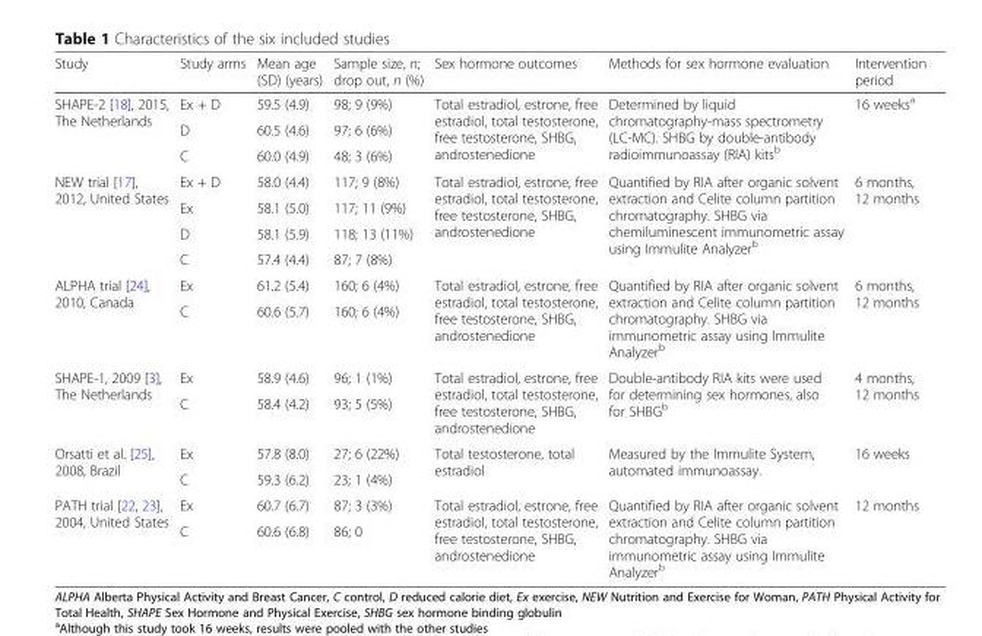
<table><thead><tr><td>Study</td><td>Study arms</td><td>Mean age (SD) (years)</td><td>Sample size, n; drop out, n (%)</td><td>Sex hormone outcomes</td><td>Methods for sex hormone evaluation</td><td>Intervention period</td></tr></thead><tbody><tr><td rowspan="3">SHAPE-2 [18], 2015, The Netherlands</td><td>Ex + D</td><td>59.5 (4.9)</td><td>98; 9 (9%)</td><td rowspan="3">Total estradiol, estrone, free estradiol, total testosterone, free testosterone, SHBG, androstenedione</td><td rowspan="3">Determined by liquid chromatography-mass spectrometry (LC-MC). SHBG by double-antibody radioimmunoassay (RIA) kits<sup>b</sup></td><td rowspan="3">16 weeks<sup>a</sup></td></tr><tr><td>D</td><td>60.5 (4.6)</td><td>97; 6 (6%)</td></tr><tr><td>C</td><td>60.0 (4.9)</td><td>48; 3 (6%)</td></tr><tr><td rowspan="4">NEW trial [17], 2012, United States</td><td>Ex + D</td><td>58.0 (4.4)</td><td>117; 9 (8%)</td><td rowspan="4">Total estradiol, estrone, free estradiol, total testosterone, free testosterone, SHBG, androstenedione</td><td rowspan="4">Quantified by RIA after organic solvent extraction and Celite column partition chromatography. SHBG via chemiluminescent immunometric assay using Immulite Analyzer<sup>b</sup></td><td rowspan="4">6 months, 12 months</td></tr><tr><td>Ex</td><td>58.1 (5.0)</td><td>117; 11 (9%)</td></tr><tr><td>D</td><td>58.1 (5.9)</td><td>118; 13 (11%)</td></tr><tr><td>C</td><td>57.4 (4.4)</td><td>87; 7 (8%)</td></tr><tr><td rowspan="2">ALPHA trial [24], 2010, Canada</td><td>Ex</td><td>61.2 (5.4)</td><td>160; 6 (4%)</td><td rowspan="2">Total estradiol, estrone, free estradiol, total testosterone, free testosterone, SHBG, androstenedione</td><td rowspan="2">Quantified by RIA after organic solvent extraction and Celite column partition chromatography. SHBG via immunometric assay using Immulite Analyzer<sup>b</sup></td><td rowspan="2">6 months, 12 months</td></tr><tr><td>C</td><td>60.6 (5.7)</td><td>160; 6 (4%)</td></tr><tr><td rowspan="2">SHAPE-1, 2009 [3], The Netherlands</td><td>Ex</td><td>58.9 (4.6)</td><td>96; 1 (1%)</td><td rowspan="2">Total estradiol, estrone, free estradiol, total testosterone, free testosterone, SHBG, androstenedione</td><td rowspan="2">Double-antibody RIA kits were used for determining sex hormones, also for SHBG<sup>b</sup></td><td rowspan="2">4 months, 12 months</td></tr><tr><td>C</td><td>58.4 (4.2)</td><td>93; 5 (5%)</td></tr><tr><td rowspan="2">Orsatti et al. [25], 2008, Brazil</td><td>Ex</td><td>57.8 (8.0)</td><td>27; 6 (22%)</td><td rowspan="2">Total testosterone, total estradiol</td><td rowspan="2">Measured by the Immulite System, automated immunoassay.</td><td rowspan="2">16 weeks</td></tr><tr><td>C</td><td>59.3 (6.2)</td><td>23; 1 (4%)</td></tr><tr><td rowspan="2">PATH trial [22, 23], 2004, United States</td><td>Ex</td><td>60.7 (6.7)</td><td>87; 3 (3%)</td><td rowspan="2">Total estradiol, estrone, free estradiol, total testosterone, free testosterone, SHBG, androstenedione</td><td rowspan="2">Quantified by RIA after organic solvent extraction and Celite column partition chromatography. SHBG via immunometric assay using Immulite Analyzer<sup>b</sup></td><td rowspan="2">12 months</td></tr><tr><td>C</td><td>60.6 (6.8)</td><td>86; 0</td></tr></tbody></table>